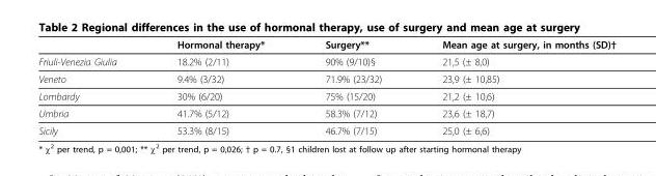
<table><thead><tr><td></td><td>Hormonal therapy*</td><td>Surgery**</td><td>Mean age at surgery, in months (SD)†</td></tr></thead><tbody><tr><td>Friuli-Venezia Giulia</td><td>18.2% (2/11)</td><td>90% (9/10)§</td><td>21,5 (± 8,0)</td></tr><tr><td>Veneto</td><td>9.4% (3/32)</td><td>71.9% (23/32)</td><td>23,9 (± 10,85)</td></tr><tr><td>Lombardy</td><td>30% (6/20)</td><td>75% (15/20)</td><td>21,2 (± 10,6)</td></tr><tr><td>Umbria</td><td>41.7% (5/12)</td><td>58.3% (7/12)</td><td>23,6 (± 18,7)</td></tr><tr><td>Sicily</td><td>53.3% (8/15)</td><td>46.7% (7/15)</td><td>25,0 (± 6,6)</td></tr></tbody></table>